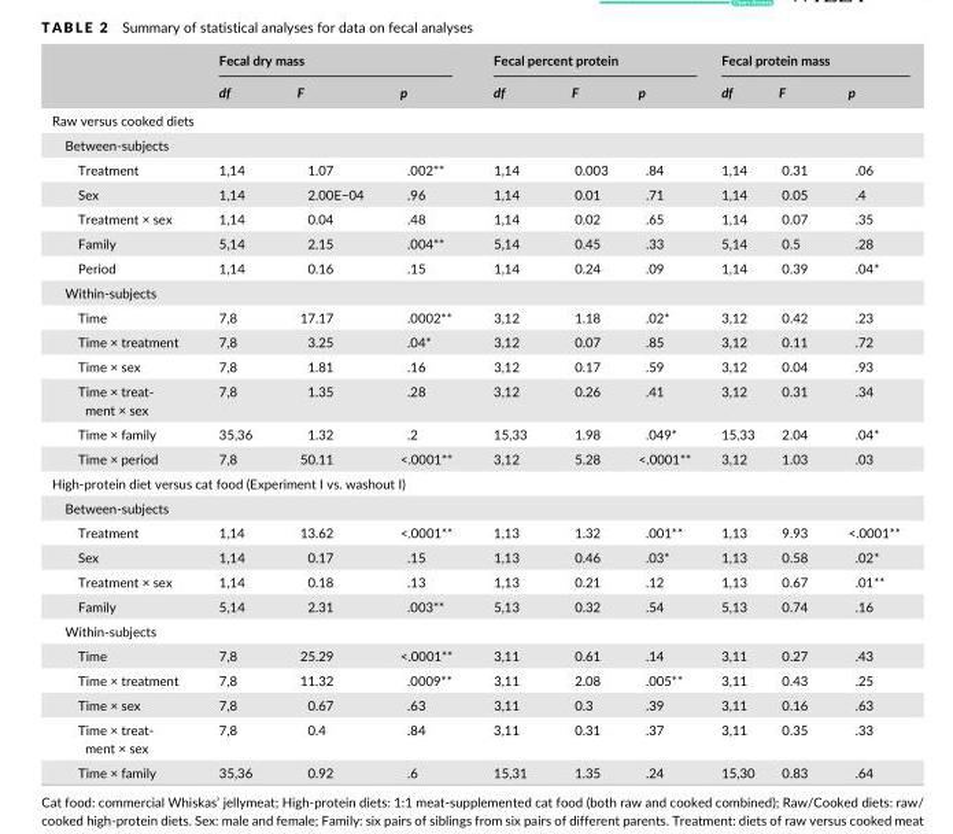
<table><thead><tr><td rowspan="2"></td><td colspan="3">Fecal dry mass</td><td colspan="3">Fecal percent protein</td><td colspan="3">Fecal protein mass</td></tr><tr><td>df</td><td>F</td><td>p</td><td>df</td><td>F</td><td>p</td><td>df</td><td>F</td><td>p</td></tr></thead><tbody><tr><td colspan="10">Raw versus cooked diets</td></tr><tr><td colspan="10">Between- subjects</td></tr><tr><td>Treatment</td><td>1,14</td><td>1.07</td><td>.002**</td><td>1,14</td><td>0.003</td><td>.84</td><td>1,14</td><td>0.31</td><td>.06</td></tr><tr><td>Sex</td><td>1,14</td><td>2.00E−04</td><td>.96</td><td>1,14</td><td>0.01</td><td>.71</td><td>1,14</td><td>0.05</td><td>.4</td></tr><tr><td>Treatment × sex</td><td>1,14</td><td>0.04</td><td>.48</td><td>1,14</td><td>0.02</td><td>.65</td><td>1,14</td><td>0.07</td><td>.35</td></tr><tr><td>Family</td><td>5,14</td><td>2.15</td><td>.004**</td><td>5,14</td><td>0.45</td><td>.33</td><td>5,14</td><td>0.5</td><td>.28</td></tr><tr><td>Period</td><td>1,14</td><td>0.16</td><td>.15</td><td>1,14</td><td>0.24</td><td>.09</td><td>1,14</td><td>0.39</td><td>.04*</td></tr><tr><td colspan="10">Within- subjects</td></tr><tr><td>Time</td><td>7,8</td><td>17.17</td><td>.0002**</td><td>3,12</td><td>1.18</td><td>.02*</td><td>3,12</td><td>0.42</td><td>.23</td></tr><tr><td>Time × treatment</td><td>7,8</td><td>3.25</td><td>.04*</td><td>3,12</td><td>0.07</td><td>.85</td><td>3,12</td><td>0.11</td><td>.72</td></tr><tr><td>Time × sex</td><td>7,8</td><td>1.81</td><td>.16</td><td>3,12</td><td>0.17</td><td>.59</td><td>3,12</td><td>0.04</td><td>.93</td></tr><tr><td>Time × treat- ment × sex</td><td>7,8</td><td>1.35</td><td>.28</td><td>3,12</td><td>0.26</td><td>.41</td><td>3,12</td><td>0.31</td><td>.34</td></tr><tr><td>Time × family</td><td>35,36</td><td>1.32</td><td>.2</td><td>15,33</td><td>1.98</td><td>.049*</td><td>15,33</td><td>2.04</td><td>.04*</td></tr><tr><td>Time × period</td><td>7,8</td><td>50.11</td><td>&lt;.0001**</td><td>3,12</td><td>5.28</td><td>&lt;.0001**</td><td>3,12</td><td>1.03</td><td>.03</td></tr><tr><td colspan="10">High- protein diet versus cat food (Experiment I vs. washout I)</td></tr><tr><td colspan="10">Between- subjects</td></tr><tr><td>Treatment</td><td>1,14</td><td>13.62</td><td>&lt;.0001**</td><td>1,13</td><td>1.32</td><td>.001**</td><td>1,13</td><td>9.93</td><td>&lt;.0001**</td></tr><tr><td>Sex</td><td>1,14</td><td>0.17</td><td>.15</td><td>1,13</td><td>0.46</td><td>.03*</td><td>1,13</td><td>0.58</td><td>.02*</td></tr><tr><td>Treatment × sex</td><td>1,14</td><td>0.18</td><td>.13</td><td>1,13</td><td>0.21</td><td>.12</td><td>1,13</td><td>0.67</td><td>.01**</td></tr><tr><td>Family</td><td>5,14</td><td>2.31</td><td>.003**</td><td>5,13</td><td>0.32</td><td>.54</td><td>5,13</td><td>0.74</td><td>.16</td></tr><tr><td colspan="10">Within- subjects</td></tr><tr><td>Time</td><td>7,8</td><td>25.29</td><td>&lt;.0001**</td><td>3,11</td><td>0.61</td><td>.14</td><td>3,11</td><td>0.27</td><td>.43</td></tr><tr><td>Time × treatment</td><td>7,8</td><td>11.32</td><td>.0009**</td><td>3,11</td><td>2.08</td><td>.005**</td><td>3,11</td><td>0.43</td><td>.25</td></tr><tr><td>Time × sex</td><td>7,8</td><td>0.67</td><td>.63</td><td>3,11</td><td>0.3</td><td>.39</td><td>3,11</td><td>0.16</td><td>.63</td></tr><tr><td>Time × treat- ment × sex</td><td>7,8</td><td>0.4</td><td>.84</td><td>3,11</td><td>0.31</td><td>.37</td><td>3,11</td><td>0.35</td><td>.33</td></tr><tr><td>Time × family</td><td>35,36</td><td>0.92</td><td>.6</td><td>15,31</td><td>1.35</td><td>.24</td><td>15,30</td><td>0.83</td><td>.64</td></tr></tbody></table>